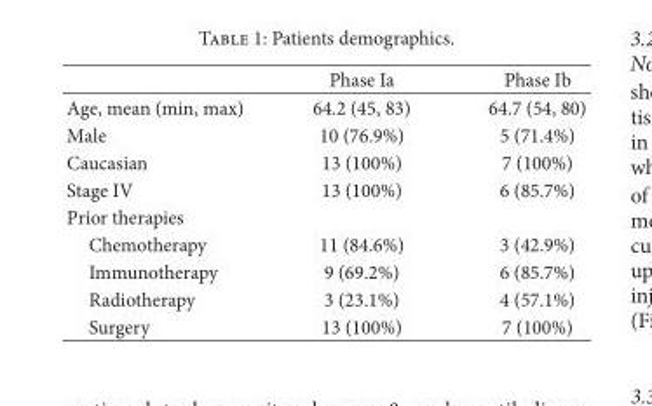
<table><thead><tr><td></td><td>Phase Ia</td><td>Phase Ib</td></tr></thead><tbody><tr><td>Age, mean (min, max)</td><td>64.2 (45, 83)</td><td>64.7 (54, 80)</td></tr><tr><td>Male</td><td>10 (76.9%)</td><td>5 (71.4%)</td></tr><tr><td>Caucasian</td><td>13 (100%)</td><td>7 (100%)</td></tr><tr><td>Stage IV</td><td>13 (100%)</td><td>6 (85.7%)</td></tr><tr><td colspan="3">Prior therapies</td></tr><tr><td>Chemotherapy</td><td>11 (84.6%)</td><td>3 (42.9%)</td></tr><tr><td>Immunotherapy</td><td>9 (69.2%)</td><td>6 (85.7%)</td></tr><tr><td>Radiotherapy</td><td>3 (23.1%)</td><td>4 (57.1%)</td></tr><tr><td>Surgery</td><td>13 (100%)</td><td>7 (100%)</td></tr></tbody></table>